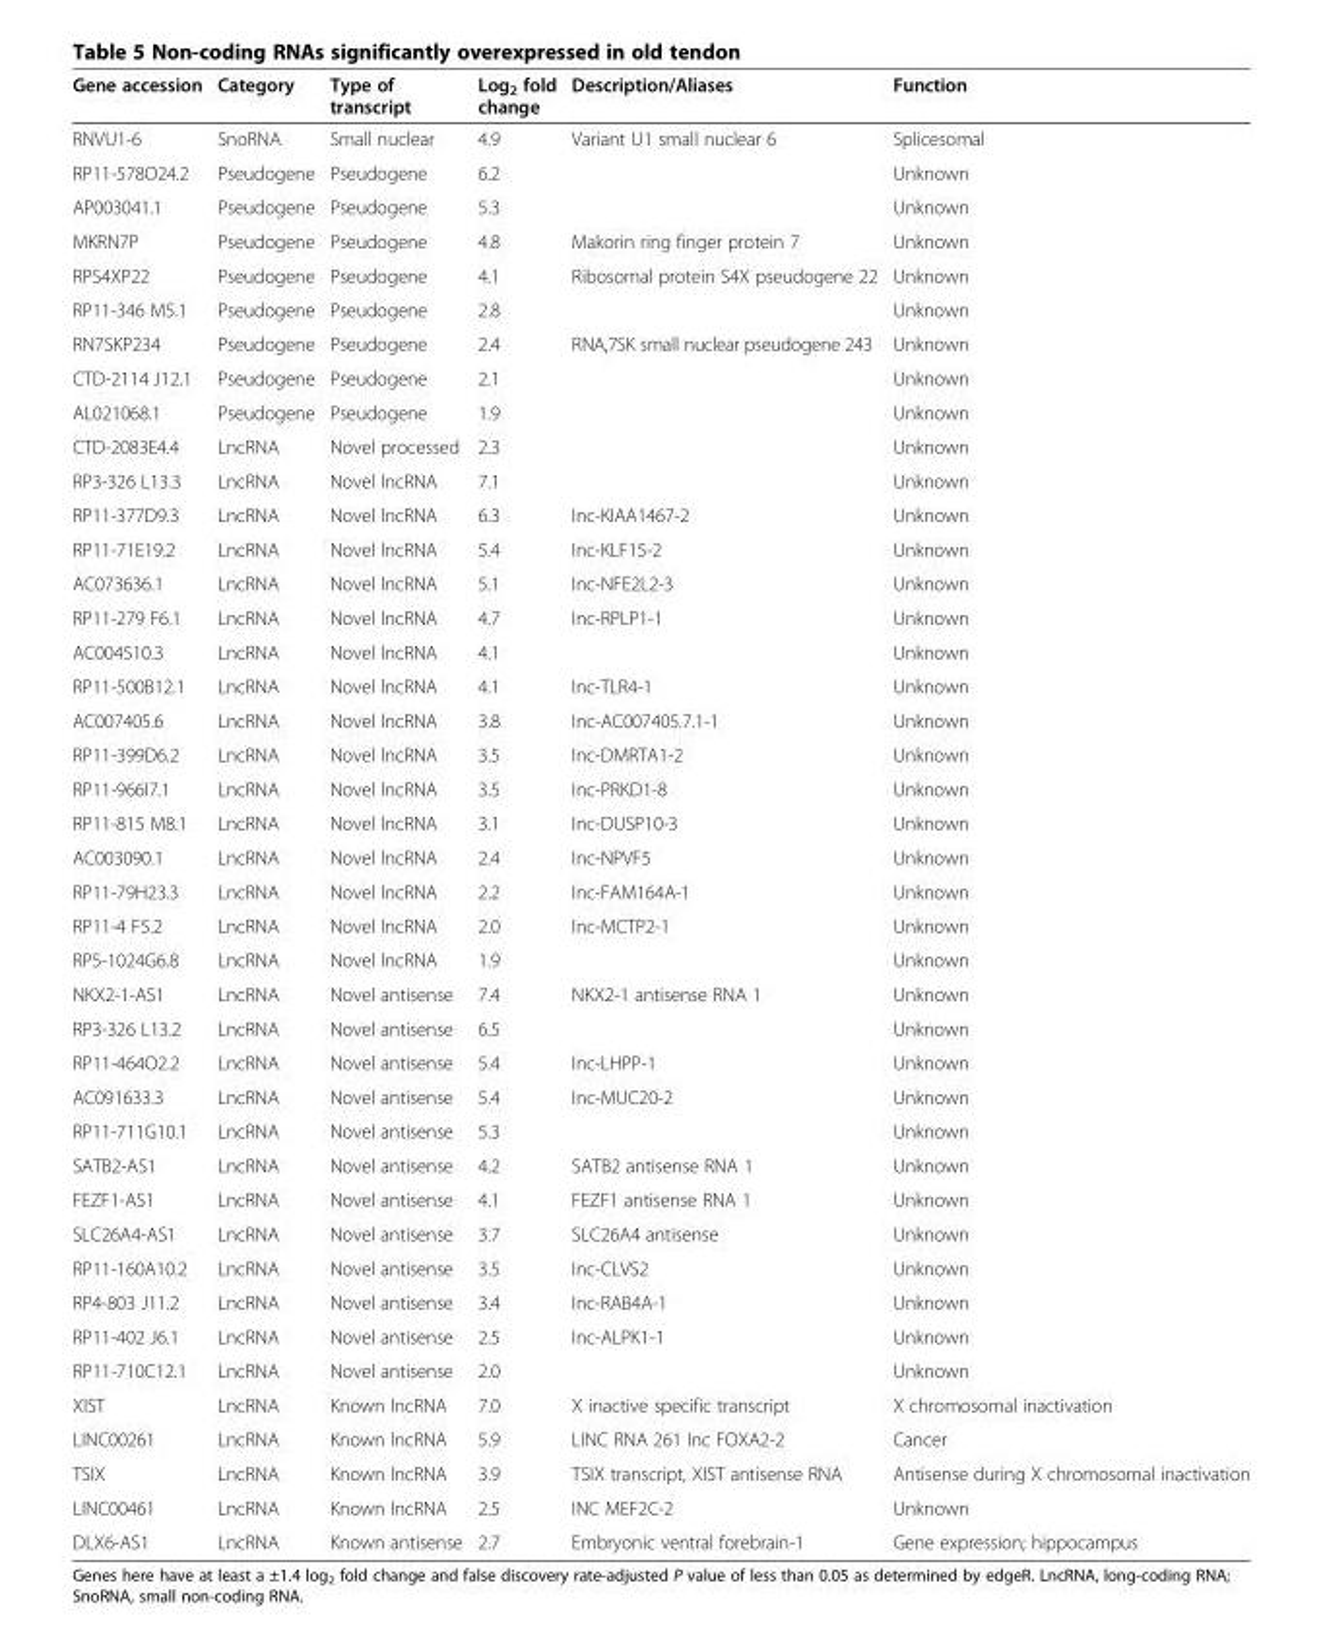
<table><thead><tr><td>Gene accession</td><td>Category</td><td>Type of transcript</td><td>Log<sub>2</sub> fold change</td><td>Description/Aliases</td><td>Function</td></tr></thead><tbody><tr><td>RNVU1-6</td><td>SnoRNA</td><td>Small nuclear</td><td>4.9</td><td>Variant U1 small nuclear 6</td><td>Splicesomal</td></tr><tr><td>RP11-578O24.2</td><td>Pseudogene</td><td>Pseudogene</td><td>6.2</td><td></td><td>Unknown</td></tr><tr><td>AP003041.1</td><td>Pseudogene</td><td>Pseudogene</td><td>5.3</td><td></td><td>Unknown</td></tr><tr><td>MKRN7P</td><td>Pseudogene</td><td>Pseudogene</td><td>4.8</td><td>Makorin ring finger protein 7</td><td>Unknown</td></tr><tr><td>RPS4XP22</td><td>Pseudogene</td><td>Pseudogene</td><td>4.1</td><td>Ribosomal protein S4X pseudogene 22</td><td>Unknown</td></tr><tr><td>RP11-346 M5.1</td><td>Pseudogene</td><td>Pseudogene</td><td>2.8</td><td></td><td>Unknown</td></tr><tr><td>RN7SKP234</td><td>Pseudogene</td><td>Pseudogene</td><td>2.4</td><td>RNA,7SK small nuclear pseudogene 243</td><td>Unknown</td></tr><tr><td>CTD-2114 J12.1</td><td>Pseudogene</td><td>Pseudogene</td><td>2.1</td><td></td><td>Unknown</td></tr><tr><td>AL021068.1</td><td>Pseudogene</td><td>Pseudogene</td><td>1.9</td><td></td><td>Unknown</td></tr><tr><td>CTD-2083E4.4</td><td>LncRNA</td><td>Novel processed</td><td>2.3</td><td></td><td>Unknown</td></tr><tr><td>RP3-326 L13.3</td><td>LncRNA</td><td>Novel lncRNA</td><td>7.1</td><td></td><td>Unknown</td></tr><tr><td>RP11-377D9.3</td><td>LncRNA</td><td>Novel lncRNA</td><td>6.3</td><td>Inc-KIAA1467-2</td><td>Unknown</td></tr><tr><td>RP11-71E19.2</td><td>LncRNA</td><td>Novel lncRNA</td><td>5.4</td><td>Inc-KLF15-2</td><td>Unknown</td></tr><tr><td>AC073636.1</td><td>LncRNA</td><td>Novel lncRNA</td><td>5.1</td><td>Inc-NFE2L2-3</td><td>Unknown</td></tr><tr><td>RP11-279 F6.1</td><td>LncRNA</td><td>Novel lncRNA</td><td>4.7</td><td>Inc-RPLP1-1</td><td>Unknown</td></tr><tr><td>AC004510.3</td><td>LncRNA</td><td>Novel lncRNA</td><td>4.1</td><td></td><td>Unknown</td></tr><tr><td>RP11-500B12.1</td><td>LncRNA</td><td>Novel lncRNA</td><td>4.1</td><td>Inc-TLR4-1</td><td>Unknown</td></tr><tr><td>AC007405.6</td><td>LncRNA</td><td>Novel lncRNA</td><td>3.8</td><td>Inc-AC007405.7.1-1</td><td>Unknown</td></tr><tr><td>RP11-399D6.2</td><td>LncRNA</td><td>Novel lncRNA</td><td>3.5</td><td>Inc-DMRTA1-2</td><td>Unknown</td></tr><tr><td>RP11-966I7.1</td><td>LncRNA</td><td>Novel lncRNA</td><td>3.5</td><td>Inc-PRKD1-8</td><td>Unknown</td></tr><tr><td>RP11-815 M8.1</td><td>LncRNA</td><td>Novel lncRNA</td><td>3.1</td><td>Inc-DUSP10-3</td><td>Unknown</td></tr><tr><td>AC003090.1</td><td>LncRNA</td><td>Novel lncRNA</td><td>2.4</td><td>Inc-NPVF5</td><td>Unknown</td></tr><tr><td>RP11-79H23.3</td><td>LncRNA</td><td>Novel lncRNA</td><td>2.2</td><td>Inc-FAM164A-1</td><td>Unknown</td></tr><tr><td>RP11-4 F5.2</td><td>LncRNA</td><td>Novel lncRNA</td><td>2.0</td><td>Inc-MCTP2-1</td><td>Unknown</td></tr><tr><td>RP5-1024G6.8</td><td>LncRNA</td><td>Novel lncRNA</td><td>1.9</td><td></td><td>Unknown</td></tr><tr><td>NKX2-1-AS1</td><td>LncRNA</td><td>Novel antisense</td><td>7.4</td><td>NKX2-1 antisense RNA 1</td><td>Unknown</td></tr><tr><td>RP3-326 L13.2</td><td>LncRNA</td><td>Novel antisense</td><td>6.5</td><td></td><td>Unknown</td></tr><tr><td>RP11-464O2.2</td><td>LncRNA</td><td>Novel antisense</td><td>5.4</td><td>Inc-LHPP-1</td><td>Unknown</td></tr><tr><td>AC091633.3</td><td>LncRNA</td><td>Novel antisense</td><td>5.4</td><td>Inc-MUC20-2</td><td>Unknown</td></tr><tr><td>RP11-711G10.1</td><td>LncRNA</td><td>Novel antisense</td><td>5.3</td><td></td><td>Unknown</td></tr><tr><td>SATB2-AS1</td><td>LncRNA</td><td>Novel antisense</td><td>4.2</td><td>SATB2 antisense RNA 1</td><td>Unknown</td></tr><tr><td>FEZF1-AS1</td><td>LncRNA</td><td>Novel antisense</td><td>4.1</td><td>FEZF1 antisense RNA 1</td><td>Unknown</td></tr><tr><td>SLC26A4-AS1</td><td>LncRNA</td><td>Novel antisense</td><td>3.7</td><td>SLC26A4 antisense</td><td>Unknown</td></tr><tr><td>RP11-160A10.2</td><td>LncRNA</td><td>Novel antisense</td><td>3.5</td><td>Inc-CLVS2</td><td>Unknown</td></tr><tr><td>RP4-803 J11.2</td><td>LncRNA</td><td>Novel antisense</td><td>3.4</td><td>Inc-RAB4A-1</td><td>Unknown</td></tr><tr><td>RP11-402 J6.1</td><td>LncRNA</td><td>Novel antisense</td><td>2.5</td><td>Inc-ALPK1-1</td><td>Unknown</td></tr><tr><td>RP11-710C12.1</td><td>LncRNA</td><td>Novel antisense</td><td>2.0</td><td></td><td>Unknown</td></tr><tr><td>XIST</td><td>LncRNA</td><td>Known lncRNA</td><td>7.0</td><td>X inactive specific transcript</td><td>X chromosomal inactivation</td></tr><tr><td>LINC00261</td><td>LncRNA</td><td>Known lncRNA</td><td>5.9</td><td>LINC RNA 261 Inc FOXA2-2</td><td>Cancer</td></tr><tr><td>TSIX</td><td>LncRNA</td><td>Known lncRNA</td><td>3.9</td><td>TSIX transcript, XIST antisense RNA</td><td>Antisense during X chromosomal inactivation</td></tr><tr><td>LINC00461</td><td>LncRNA</td><td>Known lncRNA</td><td>2.5</td><td>INC MEF2C-2</td><td>Unknown</td></tr><tr><td>DLX6-AS1</td><td>LncRNA</td><td>Known antisense</td><td>2.7</td><td>Embryonic ventral forebrain-1</td><td>Gene expression; hippocampus</td></tr></tbody></table>